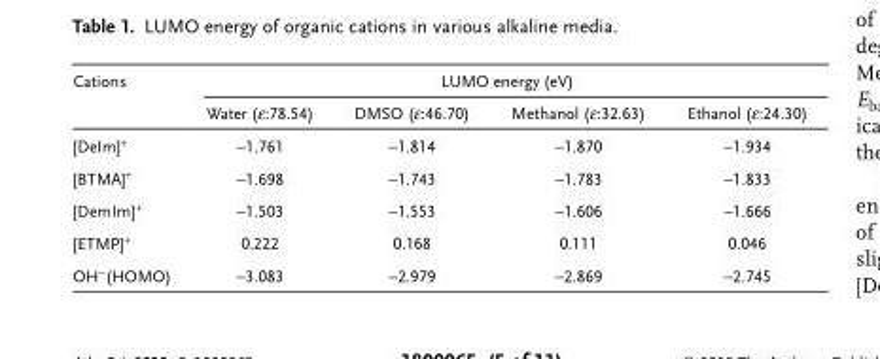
<table><thead><tr><td rowspan="2">Cations</td><td colspan="4">LUMO energy (eV)</td></tr><tr><td>Water (ε:78.54)</td><td>DMSO (ε:46.70)</td><td>Methanol (ε:32.63)</td><td>Ethanol (ε:24.30)</td></tr></thead><tbody><tr><td>[DeIm]<sup>+</sup></td><td>−1.761</td><td>−1.814</td><td>−1.870</td><td>−1.934</td></tr><tr><td>[BTMA]<sup>+</sup></td><td>−1.698</td><td>−1.743</td><td>−1.783</td><td>−1.833</td></tr><tr><td>[DemIm]<sup>+</sup></td><td>−1.503</td><td>−1.553</td><td>−1.606</td><td>−1.666</td></tr><tr><td>[ETMP]<sup>+</sup></td><td>0.222</td><td>0.168</td><td>0.111</td><td>0.046</td></tr><tr><td>OH<sup>−</sup>(HOMO)</td><td>−3.083</td><td>−2.979</td><td>−2.869</td><td>−2.745</td></tr></tbody></table>